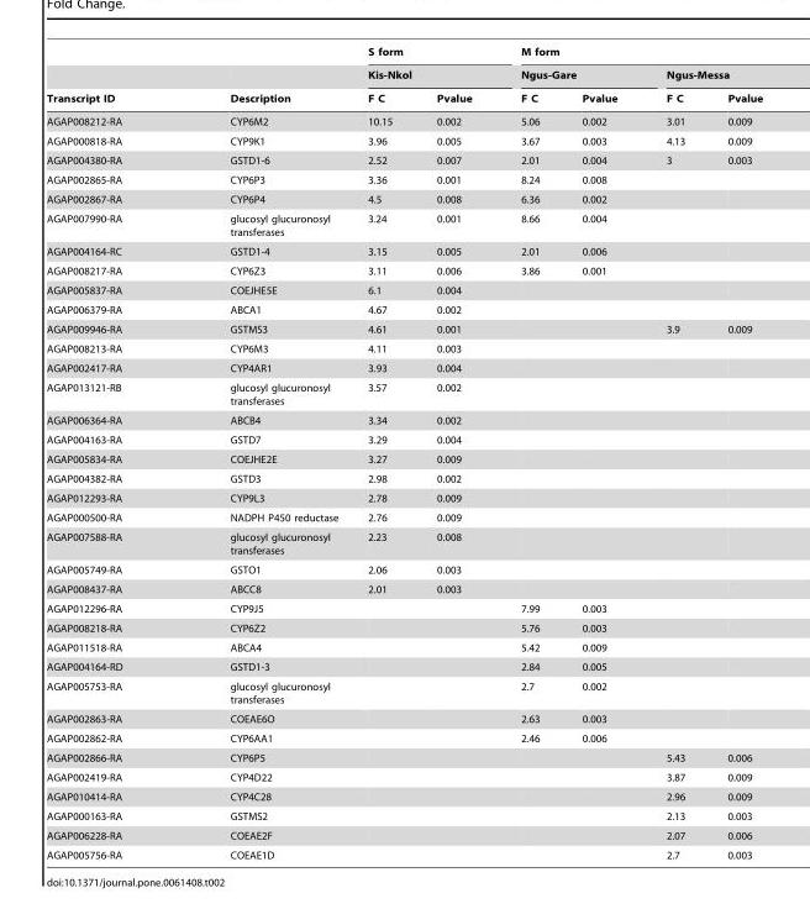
<table><thead><tr><td rowspan="3">Transcript ID</td><td rowspan="3">Description</td><td rowspan="2" colspan="2">S form Kis-Nkol</td><td colspan="4">M form</td></tr><tr><td colspan="2">Ngus-Gare</td><td colspan="2">Ngus-Messa</td></tr><tr><td>F C</td><td>Pvalue</td><td>F C</td><td>Pvalue</td><td>F C</td><td>Pvalue</td></tr></thead><tbody><tr><td>AGAP008212-RA</td><td>CYP6M2</td><td>10.15</td><td>0.002</td><td>5.06</td><td>0.002</td><td>3.01</td><td>0.009</td></tr><tr><td>AGAP000818-RA</td><td>CYP9K1</td><td>3.96</td><td>0.005</td><td>3.67</td><td>0.003</td><td>4.13</td><td>0.009</td></tr><tr><td>AGAP004380-RA</td><td>GSTD1-6</td><td>2.52</td><td>0.007</td><td>2.01</td><td>0.004</td><td>3</td><td>0.003</td></tr><tr><td>AGAP002865-RA</td><td>CYP6P3</td><td>3.36</td><td>0.001</td><td>8.24</td><td>0.008</td><td></td><td></td></tr><tr><td>AGAP002867-RA</td><td>CYP6P4</td><td>4.5</td><td>0.008</td><td>6.36</td><td>0.002</td><td></td><td></td></tr><tr><td>AGAP007990-RA</td><td>glucosyl glucuronosyl transferases</td><td>3.24</td><td>0.001</td><td>8.66</td><td>0.004</td><td></td><td></td></tr><tr><td>AGAP004164-RC</td><td>GSTD1-4</td><td>3.15</td><td>0.005</td><td>2.01</td><td>0.006</td><td></td><td></td></tr><tr><td>AGAP008217-RA</td><td>CYP6Z3</td><td>3.11</td><td>0.006</td><td>3.86</td><td>0.001</td><td></td><td></td></tr><tr><td>AGAP005837-RA</td><td>COEJHE5E</td><td>6.1</td><td>0.004</td><td></td><td></td><td></td><td></td></tr><tr><td>AGAP006379-RA</td><td>ABCA1</td><td>4.67</td><td>0.002</td><td></td><td></td><td></td><td></td></tr><tr><td>AGAP009946-RA</td><td>GSTMS3</td><td>4.61</td><td>0.001</td><td></td><td></td><td>3.9</td><td>0.009</td></tr><tr><td>AGAP008213-RA</td><td>CYP6M3</td><td>4.11</td><td>0.003</td><td></td><td></td><td></td><td></td></tr><tr><td>AGAP002417-RA</td><td>CYP4AR1</td><td>3.93</td><td>0.004</td><td></td><td></td><td></td><td></td></tr><tr><td>AGAP013121-RB</td><td>glucosyl glucuronosyl transferases</td><td>3.57</td><td>0.002</td><td></td><td></td><td></td><td></td></tr><tr><td>AGAP006364-RA</td><td>ABCB4</td><td>3.34</td><td>0.002</td><td></td><td></td><td></td><td></td></tr><tr><td>AGAP004163-RA</td><td>GSTD7</td><td>3.29</td><td>0.004</td><td></td><td></td><td></td><td></td></tr><tr><td>AGAP005834-RA</td><td>COEJHE2E</td><td>3.27</td><td>0.009</td><td></td><td></td><td></td><td></td></tr><tr><td>AGAP004382-RA</td><td>GSTD3</td><td>2.98</td><td>0.002</td><td></td><td></td><td></td><td></td></tr><tr><td>AGAP012293-RA</td><td>CYP9L3</td><td>2.78</td><td>0.009</td><td></td><td></td><td></td><td></td></tr><tr><td>AGAP000500-RA</td><td>NADPH P450 reductase</td><td>2.76</td><td>0.009</td><td></td><td></td><td></td><td></td></tr><tr><td>AGAP007588-RA</td><td>glucosyl glucuronosyl transferases</td><td>2.23</td><td>0.008</td><td></td><td></td><td></td><td></td></tr><tr><td>AGAP005749-RA</td><td>GSTO1</td><td>2.06</td><td>0.003</td><td></td><td></td><td></td><td></td></tr><tr><td>AGAP008437-RA</td><td>ABCC8</td><td>2.01</td><td>0.003</td><td></td><td></td><td></td><td></td></tr><tr><td>AGAP012296-RA</td><td>CYP9J5</td><td></td><td></td><td>7.99</td><td>0.003</td><td></td><td></td></tr><tr><td>AGAP008218-RA</td><td>CYP6Z2</td><td></td><td></td><td>5.76</td><td>0.003</td><td></td><td></td></tr><tr><td>AGAP011518-RA</td><td>ABCA4</td><td></td><td></td><td>5.42</td><td>0.009</td><td></td><td></td></tr><tr><td>AGAP004164-RD</td><td>GSTD1-3</td><td></td><td></td><td>2.84</td><td>0.005</td><td></td><td></td></tr><tr><td>AGAP005753-RA</td><td>glucosyl glucuronosyl transferases</td><td></td><td></td><td>2.7</td><td>0.002</td><td></td><td></td></tr><tr><td>AGAP002863-RA</td><td>COEAE6O</td><td></td><td></td><td>2.63</td><td>0.003</td><td></td><td></td></tr><tr><td>AGAP002862-RA</td><td>CYP6AA1</td><td></td><td></td><td>2.46</td><td>0.006</td><td></td><td></td></tr><tr><td>AGAP002866-RA</td><td>CYP6P5</td><td></td><td></td><td></td><td></td><td>5.43</td><td>0.006</td></tr><tr><td>AGAP002419-RA</td><td>CYP4D22</td><td></td><td></td><td></td><td></td><td>3.87</td><td>0.009</td></tr><tr><td>AGAP010414-RA</td><td>CYP4C28</td><td></td><td></td><td></td><td></td><td>2.96</td><td>0.009</td></tr><tr><td>AGAP000163-RA</td><td>GSTMS2</td><td></td><td></td><td></td><td></td><td>2.13</td><td>0.003</td></tr><tr><td>AGAP006228-RA</td><td>COEAE2F</td><td></td><td></td><td></td><td></td><td>2.07</td><td>0.006</td></tr><tr><td>AGAP005756-RA</td><td>COEAE1D</td><td></td><td></td><td></td><td></td><td>2.7</td><td>0.003</td></tr></tbody></table>